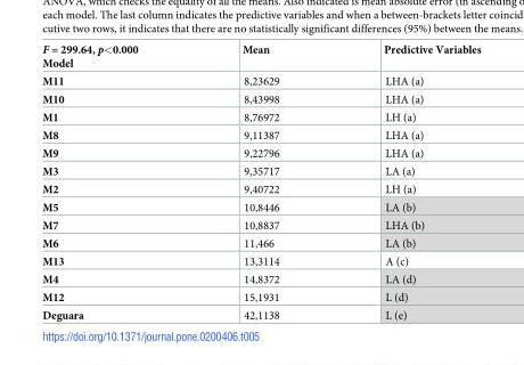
<table><thead><tr><td>F = 299.64, p&lt;0.000 Model</td><td>Mean</td><td>Predictive Variables</td></tr></thead><tbody><tr><td>M11</td><td>8,23629</td><td>LHA (a)</td></tr><tr><td>M10</td><td>8,43998</td><td>LHA (a)</td></tr><tr><td>M1</td><td>8,76972</td><td>LH (a)</td></tr><tr><td>M8</td><td>9,11387</td><td>LHA (a)</td></tr><tr><td>M9</td><td>9,22796</td><td>LHA (a)</td></tr><tr><td>M3</td><td>9,35717</td><td>LA (a)</td></tr><tr><td>M2</td><td>9,40722</td><td>LH (a)</td></tr><tr><td>M5</td><td>10,8446</td><td>LA (b)</td></tr><tr><td>M7</td><td>10,8837</td><td>LHA (b)</td></tr><tr><td>M6</td><td>11,466</td><td>LA (b)</td></tr><tr><td>M13</td><td>13,3114</td><td>A (c)</td></tr><tr><td>M4</td><td>14,8372</td><td>LA (d)</td></tr><tr><td>M12</td><td>15,1931</td><td>L (d)</td></tr><tr><td>Deguara</td><td>42,1138</td><td>L (e)</td></tr></tbody></table>